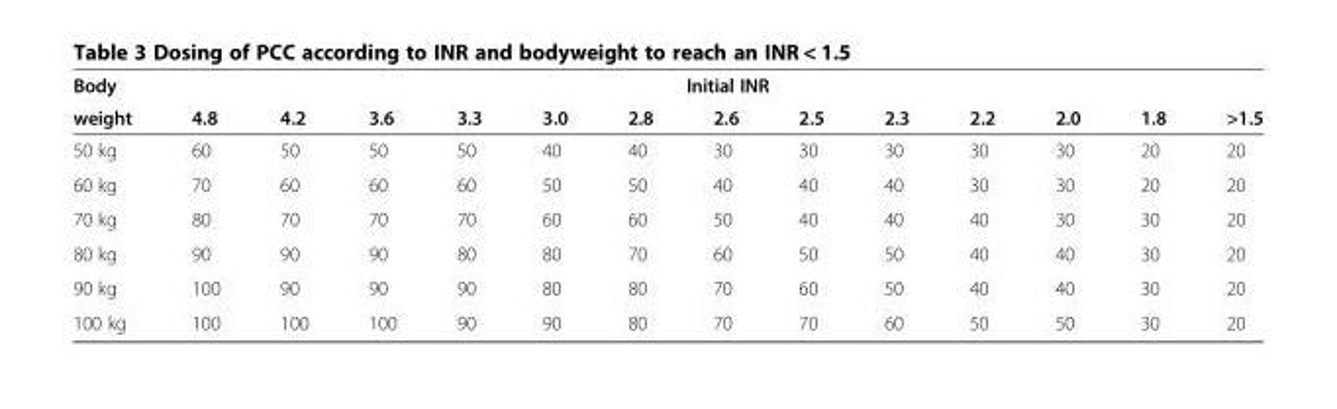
<table><thead><tr><td rowspan="2">Body weight</td><td colspan="13">Initial INR</td></tr><tr><td>4.8</td><td>4.2</td><td>3.6</td><td>3.3</td><td>3.0</td><td>2.8</td><td>2.6</td><td>2.5</td><td>2.3</td><td>2.2</td><td>2.0</td><td>1.8</td><td>&gt;1.5</td></tr></thead><tbody><tr><td>50 kg</td><td>60</td><td>50</td><td>50</td><td>50</td><td>40</td><td>40</td><td>30</td><td>30</td><td>30</td><td>30</td><td>30</td><td>20</td><td>20</td></tr><tr><td>60 kg</td><td>70</td><td>60</td><td>60</td><td>60</td><td>50</td><td>50</td><td>40</td><td>40</td><td>40</td><td>30</td><td>30</td><td>20</td><td>20</td></tr><tr><td>70 kg</td><td>80</td><td>70</td><td>70</td><td>70</td><td>60</td><td>60</td><td>50</td><td>40</td><td>40</td><td>40</td><td>30</td><td>30</td><td>20</td></tr><tr><td>80 kg</td><td>90</td><td>90</td><td>90</td><td>80</td><td>80</td><td>70</td><td>60</td><td>50</td><td>50</td><td>40</td><td>40</td><td>30</td><td>20</td></tr><tr><td>90 kg</td><td>100</td><td>90</td><td>90</td><td>90</td><td>80</td><td>80</td><td>70</td><td>60</td><td>50</td><td>40</td><td>40</td><td>30</td><td>20</td></tr><tr><td>100 kg</td><td>100</td><td>100</td><td>100</td><td>90</td><td>90</td><td>80</td><td>70</td><td>70</td><td>60</td><td>50</td><td>50</td><td>30</td><td>20</td></tr></tbody></table>